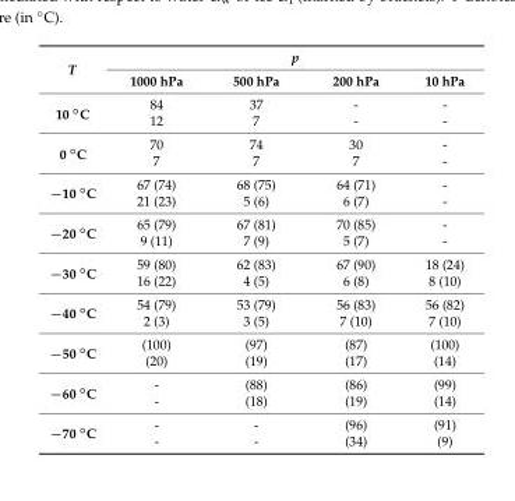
<table><thead><tr><td rowspan="2">T</td><td colspan="4">p</td></tr><tr><td>1000 hPa</td><td>500 hPa</td><td>200 hPa</td><td>10 hPa</td></tr></thead><tbody><tr><td rowspan="2">10 ◦C</td><td>84</td><td>37</td><td>-</td><td>-</td></tr><tr><td>12</td><td>7</td><td>-</td><td>-</td></tr><tr><td rowspan="2">0 ◦C</td><td>70</td><td>74</td><td>30</td><td>-</td></tr><tr><td>7</td><td>7</td><td>7</td><td>-</td></tr><tr><td rowspan="2">−10 ◦C</td><td>67 (74)</td><td>68 (75)</td><td>64 (71)</td><td>-</td></tr><tr><td>21 (23)</td><td>5 (6)</td><td>6 (7)</td><td>-</td></tr><tr><td rowspan="2">−20 ◦C</td><td>65 (79)</td><td>67 (81)</td><td>70 (85)</td><td>-</td></tr><tr><td>9 (11)</td><td>7 (9)</td><td>5 (7)</td><td>-</td></tr><tr><td rowspan="2">−30 ◦C</td><td>59 (80)</td><td>62 (83)</td><td>67 (90)</td><td>18 (24)</td></tr><tr><td>16 (22)</td><td>4 (5)</td><td>6 (8)</td><td>8 (10)</td></tr><tr><td rowspan="2">−40 ◦C</td><td>54 (79)</td><td>53 (79)</td><td>56 (83)</td><td>56 (82)</td></tr><tr><td>2 (3)</td><td>3 (5)</td><td>7 (10)</td><td>7 (10)</td></tr><tr><td rowspan="2">−50 ◦C</td><td>(100)</td><td>(97)</td><td>(87)</td><td>(100)</td></tr><tr><td>(20)</td><td>(19)</td><td>(17)</td><td>(14)</td></tr><tr><td rowspan="2">−60 ◦C</td><td>-</td><td>(88)</td><td>(86)</td><td>(99)</td></tr><tr><td>-</td><td>(18)</td><td>(19)</td><td>(14)</td></tr><tr><td rowspan="2">−70 ◦C</td><td>-</td><td>-</td><td>(96)</td><td>(91)</td></tr><tr><td>-</td><td>-</td><td>(34)</td><td>(9)</td></tr></tbody></table>